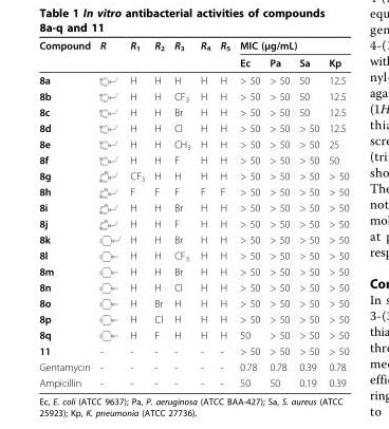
<table><thead><tr><td rowspan="2">Compound</td><td rowspan="2">R</td><td rowspan="2">R<sub>1</sub></td><td rowspan="2">R<sub>2</sub></td><td rowspan="2">R<sub>3</sub></td><td rowspan="2">R<sub>4</sub></td><td rowspan="2">R<sub>5</sub></td><td colspan="4">MIC (μg/mL)</td></tr><tr><td>Ec</td><td>Pa</td><td>Sa</td><td>Kp</td></tr></thead><tbody><tr><td>8a</td><td></td><td>H</td><td>H</td><td>H</td><td>H</td><td>H</td><td>&gt; 50</td><td>&gt; 50</td><td>50</td><td>12.5</td></tr><tr><td>8b</td><td></td><td>H</td><td>H</td><td>CF<sub>3</sub></td><td>H</td><td>H</td><td>&gt; 50</td><td>&gt; 50</td><td>50</td><td>12.5</td></tr><tr><td>8c</td><td></td><td>H</td><td>H</td><td>Br</td><td>H</td><td>H</td><td>&gt; 50</td><td>&gt; 50</td><td>50</td><td>12.5</td></tr><tr><td>8d</td><td></td><td>H</td><td>H</td><td>Cl</td><td>H</td><td>H</td><td>&gt; 50</td><td>&gt; 50</td><td>&gt; 50</td><td>12.5</td></tr><tr><td>8e</td><td></td><td>H</td><td>H</td><td>CH<sub>3</sub></td><td>H</td><td>H</td><td>&gt; 50</td><td>&gt; 50</td><td>&gt; 50</td><td>25</td></tr><tr><td>8f</td><td></td><td>H</td><td>H</td><td>F</td><td>H</td><td>H</td><td>&gt; 50</td><td>&gt; 50</td><td>&gt; 50</td><td>50</td></tr><tr><td>8g</td><td></td><td>CF<sub>3</sub></td><td>H</td><td>H</td><td>H</td><td>H</td><td>&gt; 50</td><td>&gt; 50</td><td>&gt; 50</td><td>&gt; 50</td></tr><tr><td>8h</td><td></td><td>F</td><td>F</td><td>F</td><td>F</td><td>F</td><td>&gt; 50</td><td>&gt; 50</td><td>&gt; 50</td><td>&gt; 50</td></tr><tr><td>8i</td><td></td><td>H</td><td>H</td><td>Br</td><td>H</td><td>H</td><td>&gt; 50</td><td>&gt; 50</td><td>&gt; 50</td><td>&gt; 50</td></tr><tr><td>8j</td><td></td><td>H</td><td>H</td><td>F</td><td>H</td><td>H</td><td>&gt; 50</td><td>&gt; 50</td><td>&gt; 50</td><td>&gt; 50</td></tr><tr><td>8k</td><td></td><td>H</td><td>H</td><td>Br</td><td>H</td><td>H</td><td>&gt; 50</td><td>&gt; 50</td><td>&gt; 50</td><td>&gt; 50</td></tr><tr><td>8l</td><td></td><td>H</td><td>H</td><td>CF<sub>3</sub></td><td>H</td><td>H</td><td>&gt; 50</td><td>&gt; 50</td><td>&gt; 50</td><td>&gt; 50</td></tr><tr><td>8m</td><td></td><td>H</td><td>H</td><td>Br</td><td>H</td><td>H</td><td>&gt; 50</td><td>&gt; 50</td><td>&gt; 50</td><td>&gt; 50</td></tr><tr><td>8n</td><td></td><td>H</td><td>H</td><td>Cl</td><td>H</td><td>H</td><td>&gt; 50</td><td>&gt; 50</td><td>&gt; 50</td><td>&gt; 50</td></tr><tr><td>8o</td><td></td><td>H</td><td>Br</td><td>H</td><td>H</td><td>H</td><td>&gt; 50</td><td>&gt; 50</td><td>&gt; 50</td><td>&gt; 50</td></tr><tr><td>8p</td><td></td><td>H</td><td>Cl</td><td>H</td><td>H</td><td>H</td><td>&gt; 50</td><td>&gt; 50</td><td>&gt; 50</td><td>&gt; 50</td></tr><tr><td>8q</td><td></td><td>H</td><td>F</td><td>H</td><td>H</td><td>H</td><td>50</td><td>&gt; 50</td><td>&gt; 50</td><td>&gt; 50</td></tr><tr><td>11</td><td>-</td><td>-</td><td>-</td><td>-</td><td>-</td><td>-</td><td>&gt; 50</td><td>&gt; 50</td><td>&gt; 50</td><td>&gt; 50</td></tr><tr><td>Gentamycin</td><td>-</td><td>-</td><td>-</td><td>-</td><td>-</td><td>-</td><td>0.78</td><td>0.78</td><td>0.39</td><td>0.78</td></tr><tr><td>Ampicillin</td><td>-</td><td>-</td><td>-</td><td>-</td><td>-</td><td>-</td><td>50</td><td>50</td><td>0.19</td><td>0.39</td></tr></tbody></table>